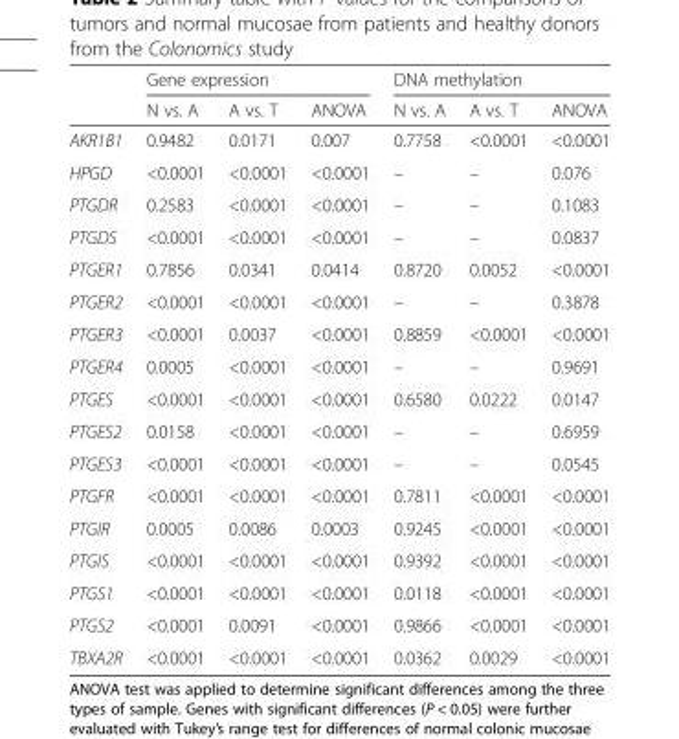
<table><thead><tr><td rowspan="2"></td><td colspan="3">Gene expression</td><td colspan="3">DNA methylation</td></tr><tr><td>N vs. A</td><td>A vs. T</td><td>ANOVA</td><td>N vs. A</td><td>A vs. T</td><td>ANOVA</td></tr></thead><tbody><tr><td>AKR1B1</td><td>0.9482</td><td>0.0171</td><td>0.007</td><td>0.7758</td><td>&lt;0.0001</td><td>&lt;0.0001</td></tr><tr><td>HPGD</td><td>&lt;0.0001</td><td>&lt;0.0001</td><td>&lt;0.0001</td><td>–</td><td>–</td><td>0.076</td></tr><tr><td>PTGDR</td><td>0.2583</td><td>&lt;0.0001</td><td>&lt;0.0001</td><td>–</td><td>–</td><td>0.1083</td></tr><tr><td>PTGDS</td><td>&lt;0.0001</td><td>&lt;0.0001</td><td>&lt;0.0001</td><td>–</td><td>–</td><td>0.0837</td></tr><tr><td>PTGER1</td><td>0.7856</td><td>0.0341</td><td>0.0414</td><td>0.8720</td><td>0.0052</td><td>&lt;0.0001</td></tr><tr><td>PTGER2</td><td>&lt;0.0001</td><td>&lt;0.0001</td><td>&lt;0.0001</td><td>–</td><td>–</td><td>0.3878</td></tr><tr><td>PTGER3</td><td>&lt;0.0001</td><td>0.0037</td><td>&lt;0.0001</td><td>0.8859</td><td>&lt;0.0001</td><td>&lt;0.0001</td></tr><tr><td>PTGER4</td><td>0.0005</td><td>&lt;0.0001</td><td>&lt;0.0001</td><td>–</td><td>–</td><td>0.9691</td></tr><tr><td>PTGES</td><td>&lt;0.0001</td><td>&lt;0.0001</td><td>&lt;0.0001</td><td>0.6580</td><td>0.0222</td><td>0.0147</td></tr><tr><td>PTGES2</td><td>0.0158</td><td>&lt;0.0001</td><td>&lt;0.0001</td><td>–</td><td>–</td><td>0.6959</td></tr><tr><td>PTGES3</td><td>&lt;0.0001</td><td>&lt;0.0001</td><td>&lt;0.0001</td><td>–</td><td>–</td><td>0.0545</td></tr><tr><td>PTGFR</td><td>&lt;0.0001</td><td>&lt;0.0001</td><td>&lt;0.0001</td><td>0.7811</td><td>&lt;0.0001</td><td>&lt;0.0001</td></tr><tr><td>PTGIR</td><td>0.0005</td><td>0.0086</td><td>0.0003</td><td>0.9245</td><td>&lt;0.0001</td><td>&lt;0.0001</td></tr><tr><td>PTGIS</td><td>&lt;0.0001</td><td>&lt;0.0001</td><td>&lt;0.0001</td><td>0.9392</td><td>&lt;0.0001</td><td>&lt;0.0001</td></tr><tr><td>PTGS1</td><td>&lt;0.0001</td><td>&lt;0.0001</td><td>&lt;0.0001</td><td>0.0118</td><td>&lt;0.0001</td><td>&lt;0.0001</td></tr><tr><td>PTGS2</td><td>&lt;0.0001</td><td>0.0091</td><td>&lt;0.0001</td><td>0.9866</td><td>&lt;0.0001</td><td>&lt;0.0001</td></tr><tr><td>TBXA2R</td><td>&lt;0.0001</td><td>&lt;0.0001</td><td>&lt;0.0001</td><td>0.0362</td><td>0.0029</td><td>&lt;0.0001</td></tr></tbody></table>